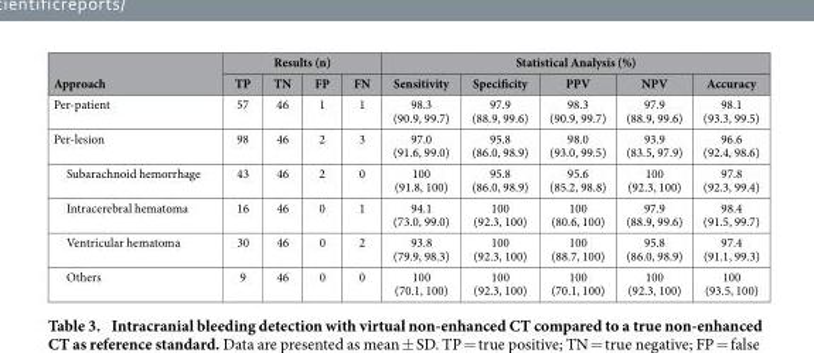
<table><thead><tr><td rowspan="2">Approach</td><td colspan="4">Results (n)</td><td colspan="5">Statistical Analysis (%)</td></tr><tr><td>TP</td><td>TN</td><td>FP</td><td>FN</td><td>Sensitivity</td><td>Specificity</td><td>PPV</td><td>NPV</td><td>Accuracy</td></tr></thead><tbody><tr><td>Per-patient</td><td>57</td><td>46</td><td>1</td><td>1</td><td>98.3 (90.9, 99.7)</td><td>97.9 (88.9, 99.6)</td><td>98.3 (90.9, 99.7)</td><td>97.9 (88.9, 99.6)</td><td>98.1 (93.3, 99.5)</td></tr><tr><td>Per-lesion</td><td>98</td><td>46</td><td>2</td><td>3</td><td>97.0 (91.6, 99.0)</td><td>95.8 (86.0, 98.9)</td><td>98.0 (93.0, 99.5)</td><td>93.9 (83.5, 97.9)</td><td>96.6 (92.4, 98.6)</td></tr><tr><td>Subarachnoid hemorrhage</td><td>43</td><td>46</td><td>2</td><td>0</td><td>100 (91.8, 100)</td><td>95.8 (86.0, 98.9)</td><td>95.6 (85.2, 98.8)</td><td>100 (92.3, 100)</td><td>97.8 (92.3, 99.4)</td></tr><tr><td>Intracerebral hematoma</td><td>16</td><td>46</td><td>0</td><td>1</td><td>94.1 (73.0, 99.0)</td><td>100 (92.3, 100)</td><td>100 (80.6, 100)</td><td>97.9 (88.9, 99.6)</td><td>98.4 (91.5, 99.7)</td></tr><tr><td>Ventricular hematoma</td><td>30</td><td>46</td><td>0</td><td>2</td><td>93.8 (79.9, 98.3)</td><td>100 (92.3, 100)</td><td>100 (88.7, 100)</td><td>95.8 (86.0, 98.9)</td><td>97.4 (91.1, 99.3)</td></tr><tr><td>Others</td><td>9</td><td>46</td><td>0</td><td>0</td><td>100 (70.1, 100)</td><td>100 (92.3, 100)</td><td>100 (70.1, 100)</td><td>100 (92.3, 100)</td><td>100 (93.5, 100)</td></tr></tbody></table>